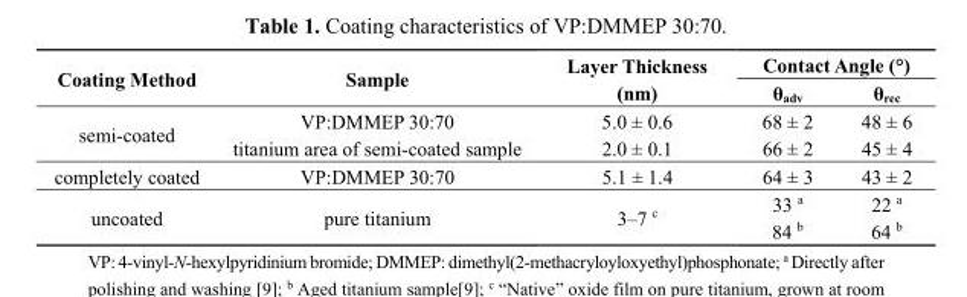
<table><thead><tr><td rowspan="2">Coating Method</td><td rowspan="2">Sample</td><td rowspan="2">Layer Thickness (nm)</td><td colspan="2">Contact Angle (°)</td></tr><tr><td>θ<sub>adv</sub></td><td>θ<sub>rec</sub></td></tr></thead><tbody><tr><td rowspan="2">semi-coated</td><td>VP:DMMEP 30:70</td><td>5.0 ± 0.6</td><td>68 ± 2</td><td>48 ± 6</td></tr><tr><td>titanium area of semi-coated sample</td><td>2.0 ± 0.1</td><td>66 ± 2</td><td>45 ± 4</td></tr><tr><td>completely coated</td><td>VP:DMMEP 30:70</td><td>5.1 ± 1.4</td><td>64 ± 3</td><td>43 ± 2</td></tr><tr><td rowspan="2">uncoated</td><td rowspan="2">pure titanium</td><td rowspan="2">3–7 <sup>c</sup></td><td>33 <sup>a</sup></td><td>22 <sup>a</sup></td></tr><tr><td>84 <sup>b</sup></td><td>64 <sup>b</sup></td></tr></tbody></table>